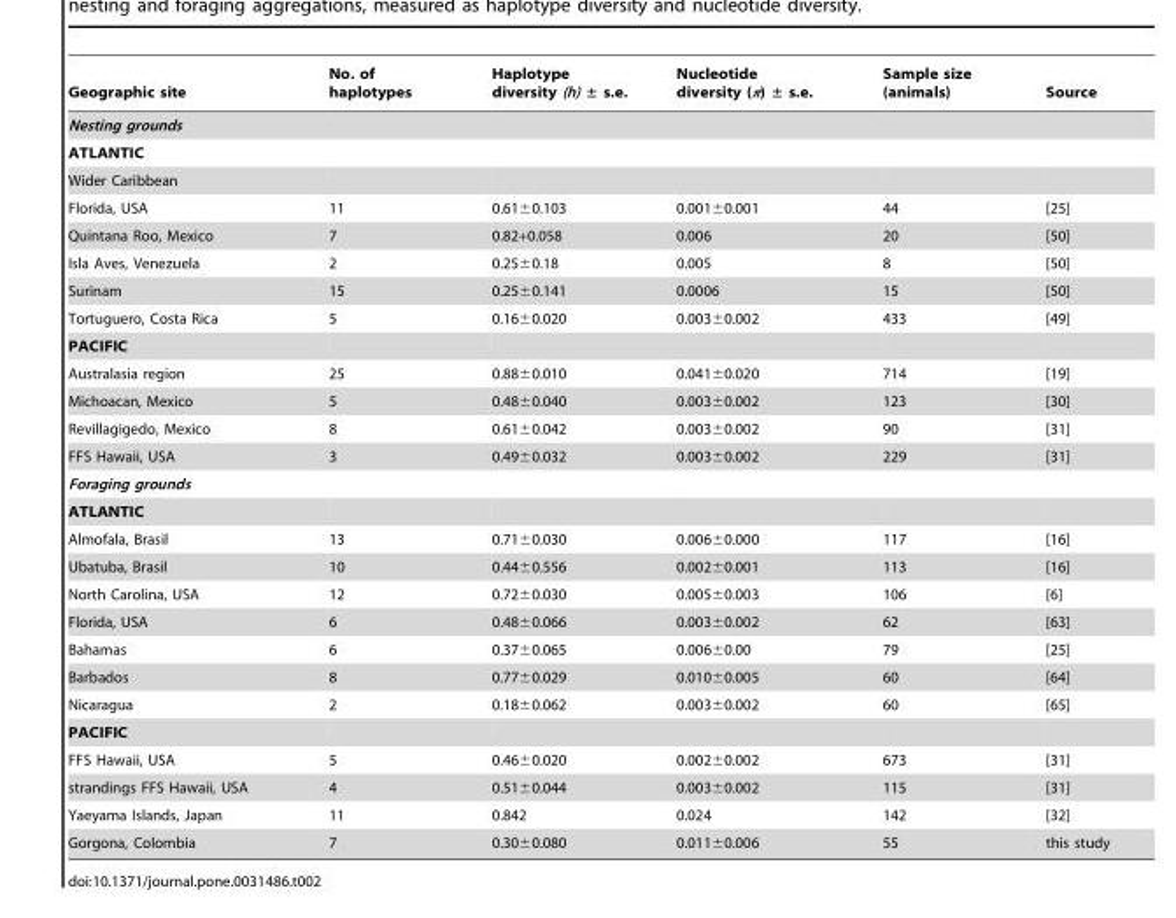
<table><thead><tr><td>Geographic site</td><td>No. of haplotypes</td><td>Haplotype diversity (h) ± s.e.</td><td>Nucleotide diversity (π) ± s.e.</td><td>Sample size (animals)</td><td>Source</td></tr></thead><tbody><tr><td colspan="6">Nesting grounds</td></tr><tr><td colspan="6">ATLANTIC</td></tr><tr><td colspan="6">Wider Caribbean</td></tr><tr><td>Florida, USA</td><td>11</td><td>0.61±0.103</td><td>0.001±0.001</td><td>44</td><td>[25]</td></tr><tr><td>Quintana Roo, Mexico</td><td>7</td><td>0.82+0.058</td><td>0.006</td><td>20</td><td>[50]</td></tr><tr><td>Isla Aves, Venezuela</td><td>2</td><td>0.25±0.18</td><td>0.005</td><td>8</td><td>[50]</td></tr><tr><td>Surinam</td><td>15</td><td>0.25±0.141</td><td>0.0006</td><td>15</td><td>[50]</td></tr><tr><td>Tortuguero, Costa Rica</td><td>5</td><td>0.16±0.020</td><td>0.003±0.002</td><td>433</td><td>[49]</td></tr><tr><td colspan="6">PACIFIC</td></tr><tr><td>Australasia region</td><td>25</td><td>0.88±0.010</td><td>0.041±0.020</td><td>714</td><td>[19]</td></tr><tr><td>Michoacan, Mexico</td><td>5</td><td>0.48±0.040</td><td>0.003±0.002</td><td>123</td><td>[30]</td></tr><tr><td>Revillagigedo, Mexico</td><td>8</td><td>0.61±0.042</td><td>0.003±0.002</td><td>90</td><td>[31]</td></tr><tr><td>FFS Hawaii, USA</td><td>3</td><td>0.49±0.032</td><td>0.003±0.002</td><td>229</td><td>[31]</td></tr><tr><td colspan="6">Foraging grounds</td></tr><tr><td colspan="6">ATLANTIC</td></tr><tr><td>Almofala, Brasil</td><td>13</td><td>0.71±0.030</td><td>0.006±0.000</td><td>117</td><td>[16]</td></tr><tr><td>Ubatuba, Brasil</td><td>10</td><td>0.44±0.556</td><td>0.002±0.001</td><td>113</td><td>[16]</td></tr><tr><td>North Carolina, USA</td><td>12</td><td>0.72±0.030</td><td>0.005±0.003</td><td>106</td><td>[6]</td></tr><tr><td>Florida, USA</td><td>6</td><td>0.48±0.066</td><td>0.003±0.002</td><td>62</td><td>[63]</td></tr><tr><td>Bahamas</td><td>6</td><td>0.37±0.065</td><td>0.006±0.00</td><td>79</td><td>[25]</td></tr><tr><td>Barbados</td><td>8</td><td>0.77±0.029</td><td>0.010±0.005</td><td>60</td><td>[64]</td></tr><tr><td>Nicaragua</td><td>2</td><td>0.18±0.062</td><td>0.003±0.002</td><td>60</td><td>[65]</td></tr><tr><td colspan="6">PACIFIC</td></tr><tr><td>FFS Hawaii, USA</td><td>5</td><td>0.46±0.020</td><td>0.002±0.002</td><td>673</td><td>[31]</td></tr><tr><td>strandings FFS Hawaii, USA</td><td>4</td><td>0.51±0.044</td><td>0.003±0.002</td><td>115</td><td>[31]</td></tr><tr><td>Yaeyama Islands, Japan</td><td>11</td><td>0.842</td><td>0.024</td><td>142</td><td>[32]</td></tr><tr><td>Gorgona, Colombia</td><td>7</td><td>0.30±0.080</td><td>0.011±0.006</td><td>55</td><td>this study</td></tr></tbody></table>